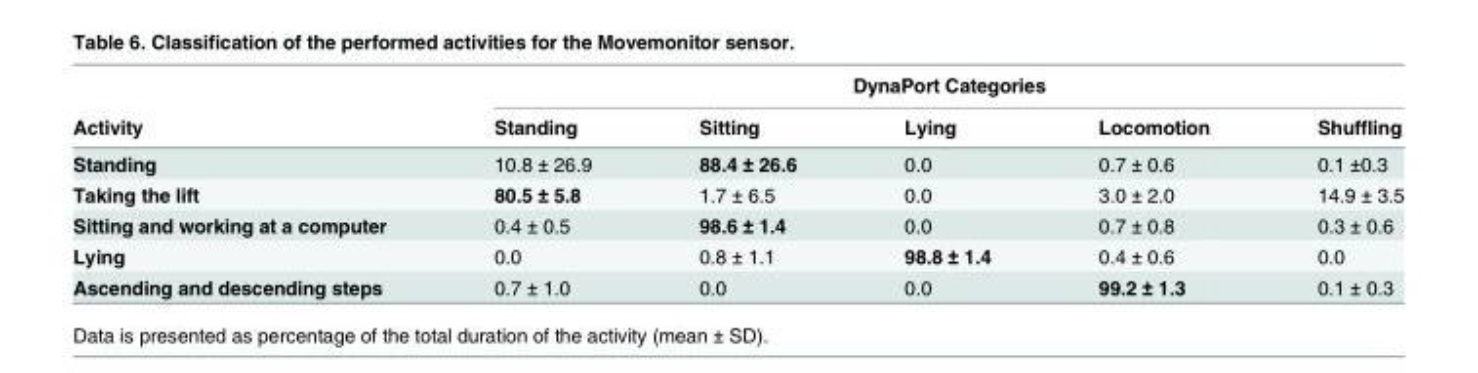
<table><thead><tr><td rowspan="2">Activity</td><td colspan="5">DynaPort Categories</td></tr><tr><td>Standing</td><td>Sitting</td><td>Lying</td><td>Locomotion</td><td>Shuffling</td></tr></thead><tbody><tr><td>Standing</td><td>10.8 ± 26.9</td><td>88.4 ± 26.6</td><td>0.0</td><td>0.7 ± 0.6</td><td>0.1 ±0.3</td></tr><tr><td>Taking the lift</td><td>80.5 ± 5.8</td><td>1.7 ± 6.5</td><td>0.0</td><td>3.0 ± 2.0</td><td>14.9 ± 3.5</td></tr><tr><td>Sitting and working at a computer</td><td>0.4 ± 0.5</td><td>98.6 ± 1.4</td><td>0.0</td><td>0.7 ± 0.8</td><td>0.3 ± 0.6</td></tr><tr><td>Lying</td><td>0.0</td><td>0.8 ± 1.1</td><td>98.8 ± 1.4</td><td>0.4 ± 0.6</td><td>0.0</td></tr><tr><td>Ascending and descending steps</td><td>0.7 ± 1.0</td><td>0.0</td><td>0.0</td><td>99.2 ± 1.3</td><td>0.1 ± 0.3</td></tr></tbody></table>